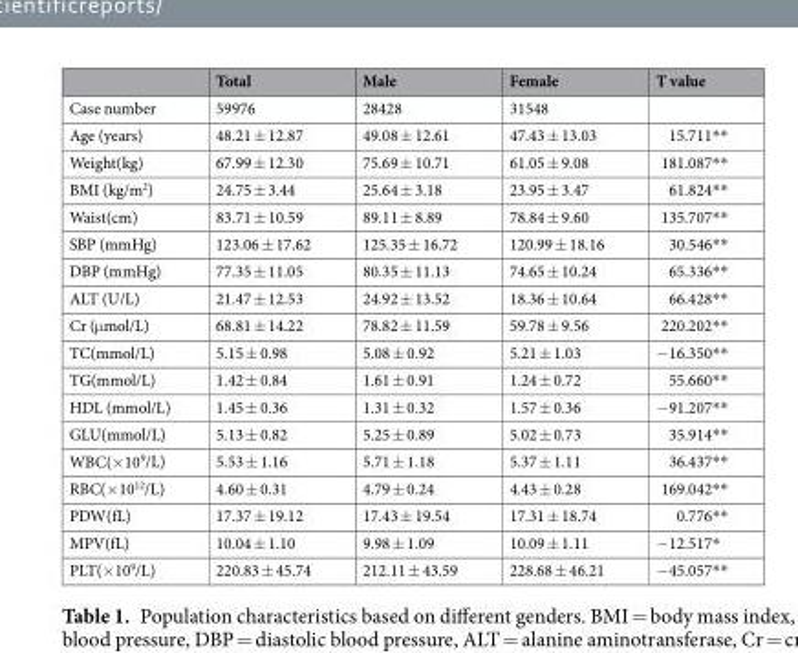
<table><thead><tr><td></td><td>Total</td><td>Male</td><td>Female</td><td>T value</td></tr></thead><tbody><tr><td>Case number</td><td>59976</td><td>28428</td><td>31548</td><td></td></tr><tr><td>Age (years)</td><td>48.21 ± 12.87</td><td>49.08 ± 12.61</td><td>47.43 ± 13.03</td><td>15.711**</td></tr><tr><td>Weight(kg)</td><td>67.99 ± 12.30</td><td>75.69 ± 10.71</td><td>61.05 ± 9.08</td><td>181.087**</td></tr><tr><td>BMI (kg/m<sup>2</sup>)</td><td>24.75 ± 3.44</td><td>25.64 ± 3.18</td><td>23.95 ± 3.47</td><td>61.824**</td></tr><tr><td>Waist(cm)</td><td>83.71 ± 10.59</td><td>89.11 ± 8.89</td><td>78.84 ± 9.60</td><td>135.707**</td></tr><tr><td>SBP (mmHg)</td><td>123.06 ± 17.62</td><td>125.35 ± 16.72</td><td>120.99 ± 18.16</td><td>30.546**</td></tr><tr><td>DBP (mmHg)</td><td>77.35 ± 11.05</td><td>80.35 ± 11.13</td><td>74.65 ± 10.24</td><td>65.336**</td></tr><tr><td>ALT (U/L)</td><td>21.47 ± 12.53</td><td>24.92 ± 13.52</td><td>18.36 ± 10.64</td><td>66.428**</td></tr><tr><td>Cr (μmol/L)</td><td>68.81 ± 14.22</td><td>78.82 ± 11.59</td><td>59.78 ± 9.56</td><td>220.202**</td></tr><tr><td>TC(mmol/L)</td><td>5.15 ± 0.98</td><td>5.08 ± 0.92</td><td>5.21 ± 1.03</td><td>−16.350**</td></tr><tr><td>TG(mmol/L)</td><td>1.42 ± 0.84</td><td>1.61 ± 0.91</td><td>1.24 ± 0.72</td><td>55.660**</td></tr><tr><td>HDL (mmol/L)</td><td>1.45 ± 0.36</td><td>1.31 ± 0.32</td><td>1.57 ± 0.36</td><td>−91.207**</td></tr><tr><td>GLU(mmol/L)</td><td>5.13 ± 0.82</td><td>5.25 ± 0.89</td><td>5.02 ± 0.73</td><td>35.914**</td></tr><tr><td>WBC(×10<sup>9</sup>/L)</td><td>5.53 ± 1.16</td><td>5.71 ± 1.18</td><td>5.37 ± 1.11</td><td>36.437**</td></tr><tr><td>RBC(×10<sup>12</sup>/L)</td><td>4.60 ± 0.31</td><td>4.79 ± 0.24</td><td>4.43 ± 0.28</td><td>169.042**</td></tr><tr><td>PDW(fL)</td><td>17.37 ± 19.12</td><td>17.43 ± 19.54</td><td>17.31 ± 18.74</td><td>0.776**</td></tr><tr><td>MPV(fL)</td><td>10.04 ± 1.10</td><td>9.98 ± 1.09</td><td>10.09 ± 1.11</td><td>−12.517*</td></tr><tr><td>PLT(×10<sup>9</sup>/L)</td><td>220.83 ± 45.74</td><td>212.11 ± 43.59</td><td>228.68 ± 46.21</td><td>−45.057**</td></tr></tbody></table>